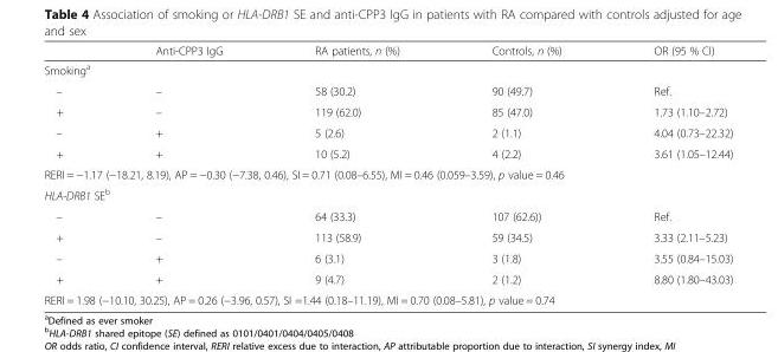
<table><thead><tr><td></td><td>Anti-CPP3 IgG</td><td>RA patients, n (%)</td><td>Controls, n (%)</td><td>OR (95 % CI)</td></tr></thead><tbody><tr><td colspan="5">Smoking<sup>a</sup></td></tr><tr><td>–</td><td>–</td><td>58 (30.2)</td><td>90 (49.7)</td><td>Ref.</td></tr><tr><td>+</td><td>–</td><td>119 (62.0)</td><td>85 (47.0)</td><td>1.73 (1.10–2.72)</td></tr><tr><td>–</td><td>+</td><td>5 (2.6)</td><td>2 (1.1)</td><td>4.04 (0.73–22.32)</td></tr><tr><td>+</td><td>+</td><td>10 (5.2)</td><td>4 (2.2)</td><td>3.61 (1.05–12.44)</td></tr><tr><td colspan="5">RERI = −1.17 (−18.21, 8.19), AP = −0.30 (−7.38, 0.46), SI = 0.71 (0.08–6.55), MI = 0.46 (0.059–3.59), p value = 0.46</td></tr><tr><td colspan="5">HLA-DRB1 SE<sup>b</sup></td></tr><tr><td>–</td><td>–</td><td>64 (33.3)</td><td>107 (62.6))</td><td>Ref.</td></tr><tr><td>+</td><td>–</td><td>113 (58.9)</td><td>59 (34.5)</td><td>3.33 (2.11–5.23)</td></tr><tr><td>–</td><td>+</td><td>6 (3.1)</td><td>3 (1.8)</td><td>3.55 (0.84–15.03)</td></tr><tr><td>+</td><td>+</td><td>9 (4.7)</td><td>2 (1.2)</td><td>8.80 (1.80–43.03)</td></tr><tr><td colspan="5">RERI = 1.98 (−10.10, 30.25), AP = 0.26 (−3.96, 0.57), SI =1.44 (0.18–11.19), MI = 0.70 (0.08–5.81), p value = 0.74</td></tr></tbody></table>